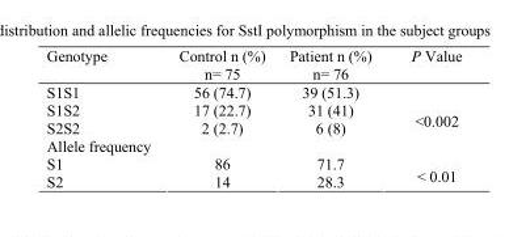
<table><thead><tr><td>Genotype</td><td>Control n (%) n= 75</td><td>Patient n (%) n= 76</td><td>P Value</td></tr></thead><tbody><tr><td>S1S1</td><td>56 (74.7)</td><td>39 (51.3)</td><td></td></tr><tr><td>S1S2</td><td>17 (22.7)</td><td>31 (41)</td><td rowspan="2">&lt;0.002</td></tr><tr><td>S2S2</td><td>2 (2.7)</td><td>6 (8)</td></tr><tr><td colspan="4">Allele frequency</td></tr><tr><td>S1</td><td>86</td><td>71.7</td><td rowspan="2">&lt; 0.01</td></tr><tr><td>S2</td><td>14</td><td>28.3</td></tr></tbody></table>